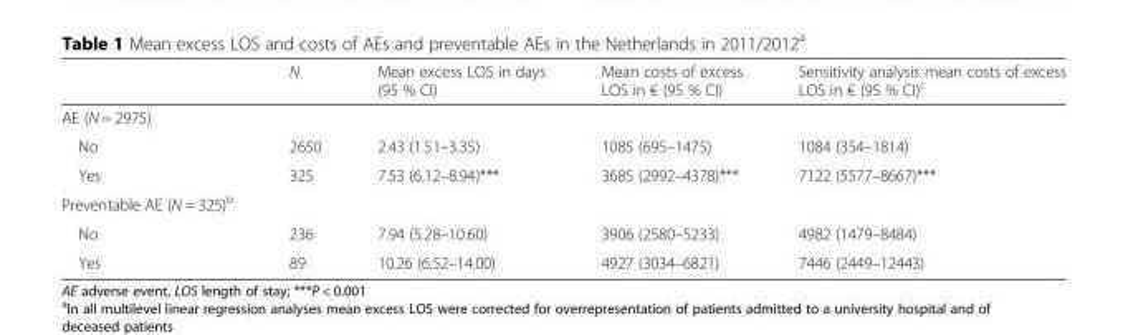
<table><thead><tr><td></td><td>N</td><td>Mean excess LOS in days (95 % CI)</td><td>Mean costs of excess LOS in € (95 % CI)</td><td>Sensitivity analysis mean costs of excess LOS in € (95 % CI)<sup>c</sup></td></tr></thead><tbody><tr><td colspan="5">AE (N = 2975)</td></tr><tr><td>No</td><td>2650</td><td>2.43 (1.51–3.35)</td><td>1085 (695–1475)</td><td>1084 (354–1814)</td></tr><tr><td>Yes</td><td>325</td><td>7.53 (6.12–8.94)***</td><td>3685 (2992–4378)***</td><td>7122 (5577–8667)***</td></tr><tr><td colspan="5">Preventable AE (N = 325)<sup>b</sup></td></tr><tr><td>No</td><td>236</td><td>7.94 (5.28–10.60)</td><td>3906 (2580–5233)</td><td>4982 (1479–8484)</td></tr><tr><td>Yes</td><td>89</td><td>10.26 (6.52–14.00)</td><td>4927 (3034–6821)</td><td>7446 (2449–12443)</td></tr></tbody></table>